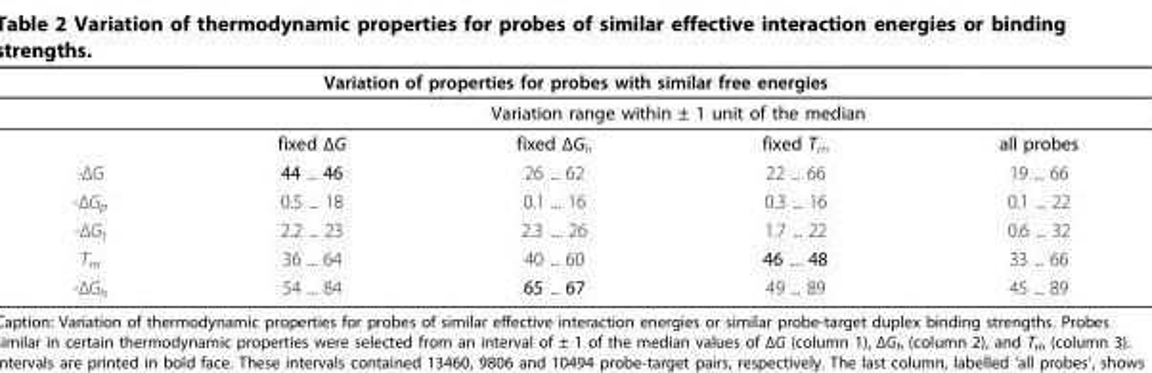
<table><thead><tr><td colspan="5">Variation of properties for probes with similar free energies</td></tr><tr><td rowspan="2"></td><td colspan="4">Variation range within ± 1 unit of the median</td></tr><tr><td>fixed ΔG</td><td>fixed ΔG<sub>h</sub></td><td>fixed T<sub>m</sub></td><td>all probes</td></tr></thead><tbody><tr><td>-ΔG</td><td>44 ... 46</td><td>26 ... 62</td><td>22 ... 66</td><td>19 ... 66</td></tr><tr><td>-ΔG<sub>p</sub></td><td>0.5 ... 18</td><td>0.1 ... 16</td><td>0.3 ... 16</td><td>0.1 ... 22</td></tr><tr><td>-ΔG<sub>t</sub></td><td>2.2 ... 23</td><td>2.3 .... 26</td><td>1.7 ... 22</td><td>0.6 ... 32</td></tr><tr><td>T<sub>m</sub></td><td>36 ... 64</td><td>40 ... 60</td><td>46 .... 48</td><td>33 ... 66</td></tr><tr><td>-ΔG<sub>h</sub></td><td>54 ... 84</td><td>65 ... 67</td><td>49 ... 89</td><td>45 ... 89</td></tr></tbody></table>